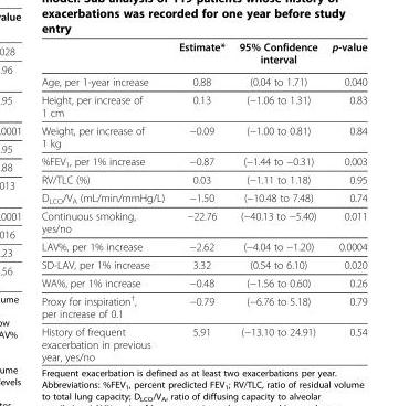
<table><thead><tr><td></td><td>Estimate*</td><td>95% Confidence interval</td><td>p-value</td></tr></thead><tbody><tr><td>Age, per 1-year increase</td><td>0.88</td><td>(0.04 to 1.71)</td><td>0.040</td></tr><tr><td>Height, per increase of 1 cm</td><td>0.13</td><td>(−1.06 to 1.31)</td><td>0.83</td></tr><tr><td>Weight, per increase of 1 kg</td><td>−0.09</td><td>(−1.00 to 0.81)</td><td>0.84</td></tr><tr><td>%FEV<sub>1</sub>, per 1% increase</td><td>−0.87</td><td>(−1.44 to −0.31)</td><td>0.003</td></tr><tr><td>RV/TLC (%)</td><td>0.03</td><td>(−1.11 to 1.18)</td><td>0.95</td></tr><tr><td>D<sub>LCO</sub>/V<sub>A</sub> (mL/min/mmHg/L)</td><td>−1.50</td><td>(−10.48 to 7.48)</td><td>0.74</td></tr><tr><td>Continuous smoking, yes/no</td><td>−22.76</td><td>(−40.13 to −5.40)</td><td>0.011</td></tr><tr><td>LAV%, per 1% increase</td><td>−2.62</td><td>(−4.04 to −1.20)</td><td>0.0004</td></tr><tr><td>SD-LAV, per 1% increase</td><td>3.32</td><td>(0.54 to 6.10)</td><td>0.020</td></tr><tr><td>WA%, per 1% increase</td><td>−0.48</td><td>(−1.56 to 0.60)</td><td>0.26</td></tr><tr><td>Proxy for inspiration<sup>†</sup>, per increase of 0.1</td><td>−0.79</td><td>(−6.76 to 5.18)</td><td>0.79</td></tr><tr><td>History of frequent exacerbation in previous year, yes/no</td><td>5.91</td><td>(−13.10 to 24.91)</td><td>0.54</td></tr></tbody></table>